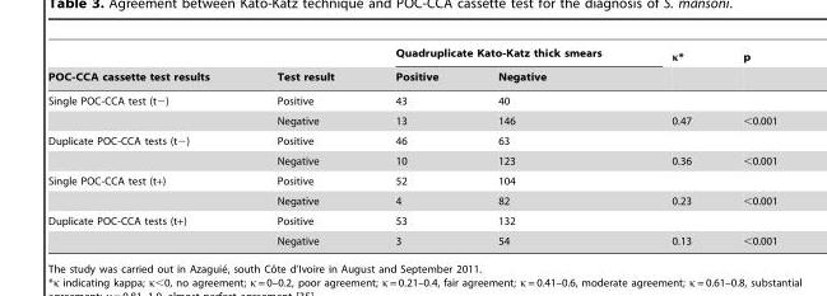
<table><thead><tr><td rowspan="2">POC-CCA cassette test results</td><td rowspan="2">Test result</td><td colspan="2">Quadruplicate Kato-Katz thick smears</td><td rowspan="2">κ*</td><td rowspan="2">p</td></tr><tr><td>Positive</td><td>Negative</td></tr></thead><tbody><tr><td rowspan="2">Single POC-CCA test (t−)</td><td>Positive</td><td>43</td><td>40</td><td></td><td></td></tr><tr><td>Negative</td><td>13</td><td>146</td><td>0.47</td><td>&lt;0.001</td></tr><tr><td rowspan="2">Duplicate POC-CCA tests (t−)</td><td>Positive</td><td>46</td><td>63</td><td></td><td></td></tr><tr><td>Negative</td><td>10</td><td>123</td><td>0.36</td><td>&lt;0.001</td></tr><tr><td rowspan="2">Single POC-CCA test (t+)</td><td>Positive</td><td>52</td><td>104</td><td></td><td></td></tr><tr><td>Negative</td><td>4</td><td>82</td><td>0.23</td><td>&lt;0.001</td></tr><tr><td rowspan="2">Duplicate POC-CCA tests (t+)</td><td>Positive</td><td>53</td><td>132</td><td></td><td></td></tr><tr><td>Negative</td><td>3</td><td>54</td><td>0.13</td><td>&lt;0.001</td></tr></tbody></table>